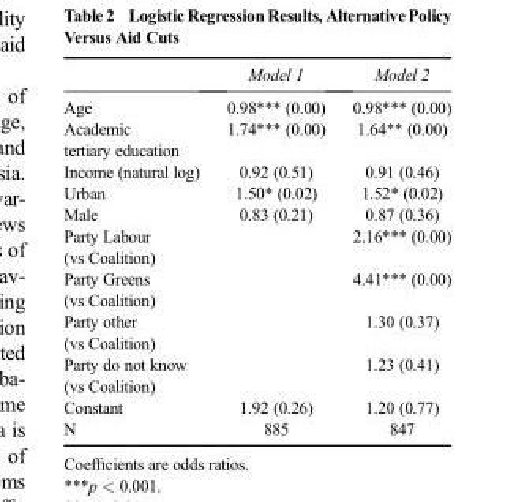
<table><thead><tr><td></td><td>Model 1</td><td>Model 2</td></tr></thead><tbody><tr><td>Age</td><td>0.98*** (0.00)</td><td>0.98*** (0.00)</td></tr><tr><td>Academic tertiary education</td><td>1.74*** (0.00)</td><td>1.64** (0.00)</td></tr><tr><td>Income (natural log)</td><td>0.92 (0.51)</td><td>0.91 (0.46)</td></tr><tr><td>Urban</td><td>1.50* (0.02)</td><td>1.52* (0.02)</td></tr><tr><td>Male</td><td>0.83 (0.21)</td><td>0.87 (0.36)</td></tr><tr><td>Party Labour (vs Coalition)</td><td></td><td>2.16*** (0.00)</td></tr><tr><td>Party Greens (vs Coalition)</td><td></td><td>4.41*** (0.00)</td></tr><tr><td>Party other (vs Coalition)</td><td></td><td>1.30 (0.37)</td></tr><tr><td>Party do not know (vs Coalition)</td><td></td><td>1.23 (0.41)</td></tr><tr><td>Constant</td><td>1.92 (0.26)</td><td>1.20 (0.77)</td></tr><tr><td>N</td><td>885</td><td>847</td></tr></tbody></table>